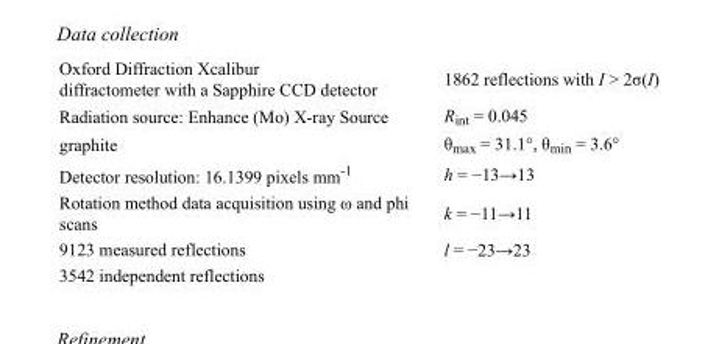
<table><tbody><tr><td>Oxford Diffraction Xcalibur diffractometer with a Sapphire CCD detector</td><td>1862 reflections with I &gt; 2σ(I)</td></tr><tr><td>Radiation source: Enhance (Mo) X-ray Source</td><td>R<sub>int</sub> = 0.045</td></tr><tr><td>graphite</td><td>θ<sub>max</sub> = 31.1°, θ<sub>min</sub> = 3.6°</td></tr><tr><td>Detector resolution: 16.1399 pixels mm<sup>-1</sup></td><td>h = −13→13</td></tr><tr><td>Rotation method data acquisition using ω and phi scans</td><td>k = −11→11</td></tr><tr><td>9123 measured reflections</td><td>l = −23→23</td></tr><tr><td>3542 independent reflections</td><td></td></tr></tbody></table>